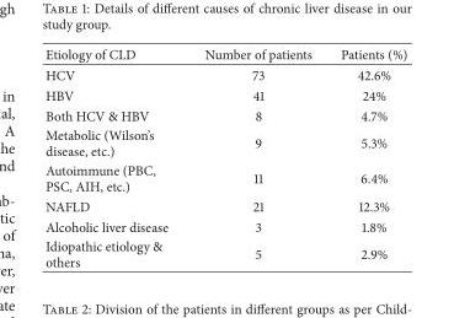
<table><thead><tr><td>Etiology of CLD</td><td>Number of patients</td><td>Patients (%)</td></tr></thead><tbody><tr><td>HCV</td><td>73</td><td>42.6%</td></tr><tr><td>HBV</td><td>41</td><td>24%</td></tr><tr><td>Both HCV &amp; HBV</td><td>8</td><td>4.7%</td></tr><tr><td>Metabolic (Wilson’s disease, etc.)</td><td>9</td><td>5.3%</td></tr><tr><td>Autoimmune (PBC, PSC, AIH, etc.)</td><td>11</td><td>6.4%</td></tr><tr><td>NAFLD</td><td>21</td><td>12.3%</td></tr><tr><td>Alcoholic liver disease</td><td>3</td><td>1.8%</td></tr><tr><td>Idiopathic etiology &amp; others</td><td>5</td><td>2.9%</td></tr></tbody></table>